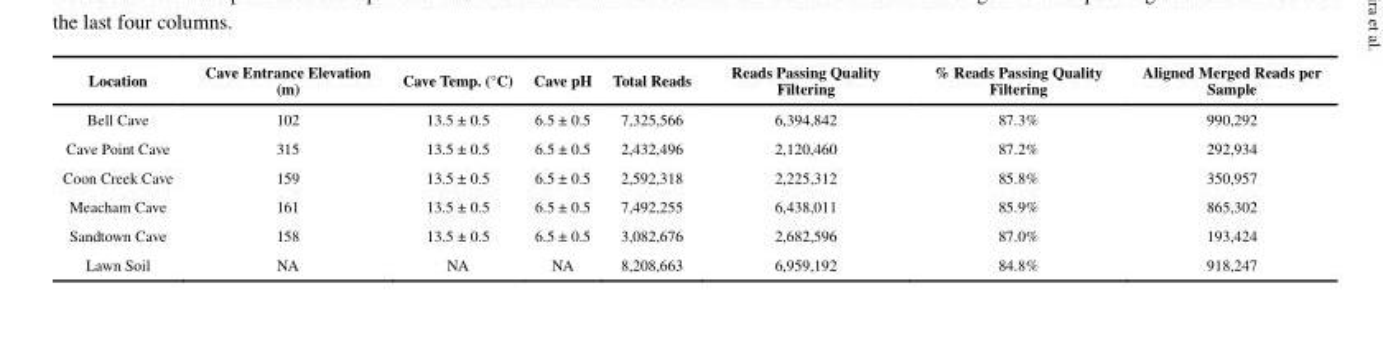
<table><thead><tr><td>Location</td><td>Cave Entrance Elevation (m)</td><td>Cave Temp. (°C)</td><td>Cave pH</td><td>Total Reads</td><td>Reads Passing Quality Filtering</td><td>% Reads Passing Quality Filtering</td><td>Aligned Merged Reads per Sample</td></tr></thead><tbody><tr><td>Bell Cave</td><td>102</td><td>13.5 ± 0.5</td><td>6.5 ± 0.5</td><td>7,325,566</td><td>6,394,842</td><td>87.3%</td><td>990,292</td></tr><tr><td>Cave Point Cave</td><td>315</td><td>13.5 ± 0.5</td><td>6.5 ± 0.5</td><td>2,432,496</td><td>2,120,460</td><td>87.2%</td><td>292,934</td></tr><tr><td>Coon Creek Cave</td><td>159</td><td>13.5 ± 0.5</td><td>6.5 ± 0.5</td><td>2,592,318</td><td>2,225,312</td><td>85.8%</td><td>350,957</td></tr><tr><td>Meacham Cave</td><td>161</td><td>13.5 ± 0.5</td><td>6.5 ± 0.5</td><td>7,492,255</td><td>6,438,011</td><td>85.9%</td><td>865,302</td></tr><tr><td>Sandtown Cave</td><td>158</td><td>13.5 ± 0.5</td><td>6.5 ± 0.5</td><td>3,082,676</td><td>2,682,596</td><td>87.0%</td><td>193,424</td></tr><tr><td>Lawn Soil</td><td>NA</td><td>NA</td><td>NA</td><td>8,208,663</td><td>6,959,192</td><td>84.8%</td><td>918,247</td></tr></tbody></table>